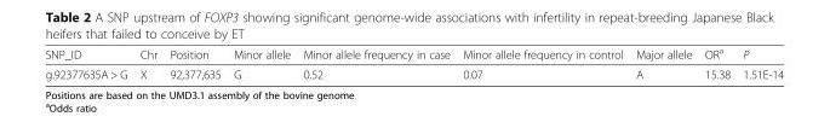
<table><thead><tr><td>SNP_ID</td><td>Chr</td><td>Position</td><td>Minor allele</td><td>Minor allele frequency in case</td><td>Minor allele frequency in control</td><td>Major allele</td><td>OR<sup>a</sup></td><td>P</td></tr></thead><tbody><tr><td>g.92377635A &gt; G</td><td>X</td><td>92,377,635</td><td>G</td><td>0.52</td><td>0.07</td><td>A</td><td>15.38</td><td>1.51E-14</td></tr></tbody></table>